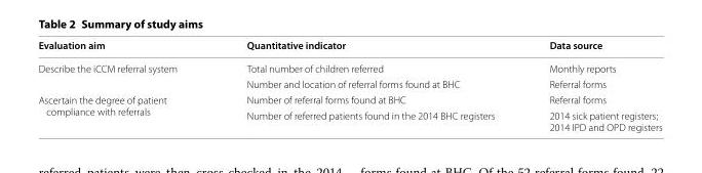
<table><thead><tr><td>Evaluation aim</td><td>Quantitative indicator</td><td>Data source</td></tr></thead><tbody><tr><td rowspan="2">Describe the iCCM referral system</td><td>Total number of children referred</td><td>Monthly reports</td></tr><tr><td>Number and location of referral forms found at BHC</td><td>Referral forms</td></tr><tr><td rowspan="2">Ascertain the degree of patient compliance with referrals</td><td>Number of referral forms found at BHC</td><td>Referral forms</td></tr><tr><td>Number of referred patients found in the 2014 BHC registers</td><td>2014 sick patient registers; 2014 IPD and OPD registers</td></tr></tbody></table>